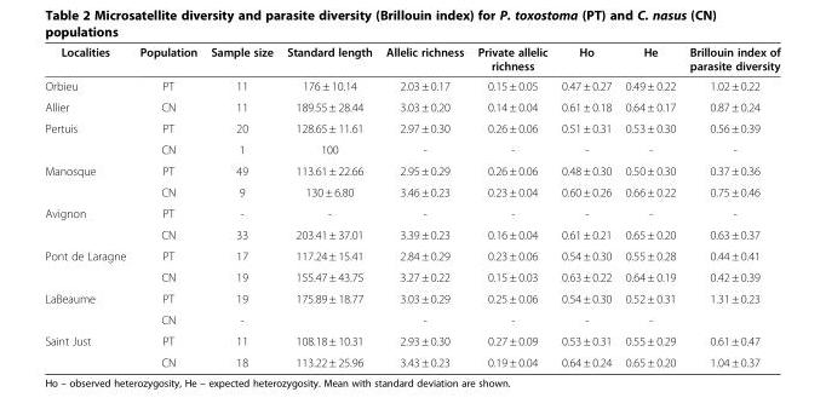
<table><thead><tr><td>Localities</td><td>Population</td><td>Sample size</td><td>Standard length</td><td>Allelic richness</td><td>Private allelic richness</td><td>Ho</td><td>He</td><td>Brillouin index of parasite diversity</td></tr></thead><tbody><tr><td>Orbieu</td><td>PT</td><td>11</td><td>176 ± 10.14</td><td>2.03 ± 0.17</td><td>0.15 ± 0.05</td><td>0.47 ± 0.27</td><td>0.49 ± 0.22</td><td>1.02 ± 0.22</td></tr><tr><td>Allier</td><td>CN</td><td>11</td><td>189.55 ± 28.44</td><td>3.03 ± 0.20</td><td>0.14 ± 0.04</td><td>0.61 ± 0.18</td><td>0.64 ± 0.17</td><td>0.87 ± 0.24</td></tr><tr><td rowspan="2">Pertuis</td><td>PT</td><td>20</td><td>128.65 ± 11.61</td><td>2.97 ± 0.30</td><td>0.26 ± 0.06</td><td>0.51 ± 0.31</td><td>0.53 ± 0.30</td><td>0.56 ± 0.39</td></tr><tr><td>CN</td><td>1</td><td>100</td><td>-</td><td>-</td><td>-</td><td>-</td><td>-</td></tr><tr><td rowspan="2">Manosque</td><td>PT</td><td>49</td><td>113.61 ± 22.66</td><td>2.95 ± 0.29</td><td>0.26 ± 0.06</td><td>0.48 ± 0.30</td><td>0.50 ± 0.30</td><td>0.37 ± 0.36</td></tr><tr><td>CN</td><td>9</td><td>130 ± 6.80</td><td>3.46 ± 0.23</td><td>0.23 ± 0.04</td><td>0.60 ± 0.26</td><td>0.66 ± 0.22</td><td>0.75 ± 0.46</td></tr><tr><td rowspan="2">Avignon</td><td>PT</td><td>-</td><td>-</td><td>-</td><td>-</td><td>-</td><td>-</td><td>-</td></tr><tr><td>CN</td><td>33</td><td>203.41 ± 37.01</td><td>3.39 ± 0.23</td><td>0.16 ± 0.04</td><td>0.61 ± 0.21</td><td>0.65 ± 0.20</td><td>0.63 ± 0.37</td></tr><tr><td rowspan="2">Pont de Laragne</td><td>PT</td><td>17</td><td>117.24 ± 15.41</td><td>2.84 ± 0.29</td><td>0.23 ± 0.06</td><td>0.54 ± 0.30</td><td>0.55 ± 0.28</td><td>0.44 ± 0.41</td></tr><tr><td>CN</td><td>19</td><td>155.47 ± 43.75</td><td>3.27 ± 0.22</td><td>0.15 ± 0.03</td><td>0.63 ± 0.22</td><td>0.64 ± 0.19</td><td>0.42 ± 0.39</td></tr><tr><td rowspan="2">LaBeaume</td><td>PT</td><td>19</td><td>175.89 ± 18.77</td><td>3.03 ± 0.29</td><td>0.25 ± 0.06</td><td>0.54 ± 0.30</td><td>0.52 ± 0.31</td><td>1.31 ± 0.23</td></tr><tr><td>CN</td><td>-</td><td></td><td>-</td><td>-</td><td>-</td><td>-</td><td></td></tr><tr><td rowspan="2">Saint Just</td><td>PT</td><td>11</td><td>108.18 ± 10.31</td><td>2.93 ± 0.30</td><td>0.27 ± 0.09</td><td>0.53 ± 0.31</td><td>0.55 ± 0.29</td><td>0.61 ± 0.47</td></tr><tr><td>CN</td><td>18</td><td>113.22 ± 25.96</td><td>3.43 ± 0.23</td><td>0.19 ± 0.04</td><td>0.64 ± 0.24</td><td>0.65 ± 0.20</td><td>1.04 ± 0.37</td></tr></tbody></table>